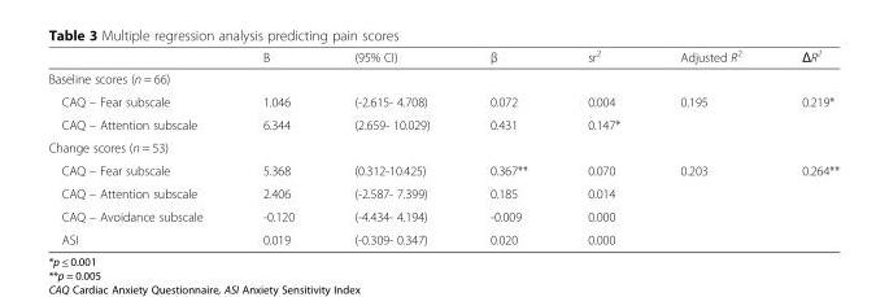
<table><thead><tr><td></td><td>B</td><td>(95% CI)</td><td>β</td><td>sr<sup>2</sup></td><td>Adjusted R<sup>2</sup></td><td>ΔR<sup>2</sup></td></tr></thead><tbody><tr><td colspan="7">Baseline scores (n = 66)</td></tr><tr><td>CAQ – Fear subscale</td><td>1.046</td><td>(-2.615- 4.708)</td><td>0.072</td><td>0.004</td><td>0.195</td><td>0.219*</td></tr><tr><td>CAQ – Attention subscale</td><td>6.344</td><td>(2.659- 10.029)</td><td>0.431</td><td>0.147*</td><td></td><td></td></tr><tr><td colspan="7">Change scores (n = 53)</td></tr><tr><td>CAQ – Fear subscale</td><td>5.368</td><td>(0.312-10.425)</td><td>0.367**</td><td>0.070</td><td>0.203</td><td>0.264**</td></tr><tr><td>CAQ – Attention subscale</td><td>2.406</td><td>(-2.587- 7.399)</td><td>0.185</td><td>0.014</td><td></td><td></td></tr><tr><td>CAQ – Avoidance subscale</td><td>-0.120</td><td>(-4.434- 4.194)</td><td>-0.009</td><td>0.000</td><td></td><td></td></tr><tr><td>ASI</td><td>0.019</td><td>(-0.309- 0.347)</td><td>0.020</td><td>0.000</td><td></td><td></td></tr></tbody></table>